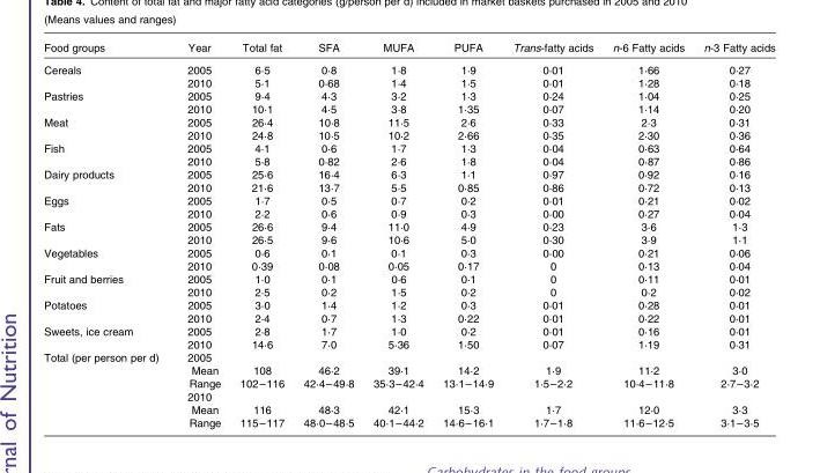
<table><thead><tr><td>Food groups</td><td>Year</td><td>Total fat</td><td>SFA</td><td>MUFA</td><td>PUFA</td><td>Trans-fatty acids</td><td>n-6 Fatty acids</td><td>n-3 Fatty acids</td></tr></thead><tbody><tr><td rowspan="2">Cereals</td><td>2005</td><td>6·5</td><td>0·8</td><td>1·8</td><td>1·9</td><td>0·01</td><td>1·66</td><td>0·27</td></tr><tr><td>2010</td><td>5·1</td><td>0·68</td><td>1·4</td><td>1·5</td><td>0·01</td><td>1·28</td><td>0·18</td></tr><tr><td rowspan="2">Pastries</td><td>2005</td><td>9·4</td><td>4·3</td><td>3·2</td><td>1·3</td><td>0·24</td><td>1·04</td><td>0·25</td></tr><tr><td>2010</td><td>10·1</td><td>4·5</td><td>3·8</td><td>1·35</td><td>0·07</td><td>1·14</td><td>0·20</td></tr><tr><td rowspan="2">Meat</td><td>2005</td><td>26·4</td><td>10·8</td><td>11·5</td><td>2·6</td><td>0·33</td><td>2·3</td><td>0·31</td></tr><tr><td>2010</td><td>24·8</td><td>10·5</td><td>10·2</td><td>2·66</td><td>0·35</td><td>2·30</td><td>0·36</td></tr><tr><td rowspan="2">Fish</td><td>2005</td><td>4·1</td><td>0·6</td><td>1·7</td><td>1·3</td><td>0·04</td><td>0·63</td><td>0·64</td></tr><tr><td>2010</td><td>5·8</td><td>0·82</td><td>2·6</td><td>1·8</td><td>0·04</td><td>0·87</td><td>0·86</td></tr><tr><td rowspan="2">Dairy products</td><td>2005</td><td>25·6</td><td>16·4</td><td>6·3</td><td>1·1</td><td>0·97</td><td>0·92</td><td>0·16</td></tr><tr><td>2010</td><td>21·6</td><td>13·7</td><td>5·5</td><td>0·85</td><td>0·86</td><td>0·72</td><td>0·13</td></tr><tr><td rowspan="2">Eggs</td><td>2005</td><td>1·7</td><td>0·5</td><td>0·7</td><td>0·2</td><td>0·01</td><td>0·21</td><td>0·02</td></tr><tr><td>2010</td><td>2·2</td><td>0·6</td><td>0·9</td><td>0·3</td><td>0·00</td><td>0·27</td><td>0·04</td></tr><tr><td rowspan="2">Fats</td><td>2005</td><td>26·6</td><td>9·4</td><td>11·0</td><td>4·9</td><td>0·23</td><td>3·6</td><td>1·3</td></tr><tr><td>2010</td><td>26·5</td><td>9·6</td><td>10·6</td><td>5·0</td><td>0·30</td><td>3·9</td><td>1·1</td></tr><tr><td rowspan="2">Vegetables</td><td>2005</td><td>0·6</td><td>0·1</td><td>0·1</td><td>0·3</td><td>0·00</td><td>0·21</td><td>0·06</td></tr><tr><td>2010</td><td>0·39</td><td>0·08</td><td>0·05</td><td>0·17</td><td>0</td><td>0·13</td><td>0·04</td></tr><tr><td rowspan="2">Fruit and berries</td><td>2005</td><td>1·0</td><td>0·1</td><td>0·6</td><td>0·1</td><td>0</td><td>0·11</td><td>0·01</td></tr><tr><td>2010</td><td>2·5</td><td>0·2</td><td>1·5</td><td>0·2</td><td>0</td><td>0·2</td><td>0·02</td></tr><tr><td rowspan="2">Potatoes</td><td>2005</td><td>3·0</td><td>1·4</td><td>1·2</td><td>0·3</td><td>0·01</td><td>0·28</td><td>0·01</td></tr><tr><td>2010</td><td>2·4</td><td>0·7</td><td>1·3</td><td>0·22</td><td>0·01</td><td>0·22</td><td>0·01</td></tr><tr><td rowspan="2">Sweets, ice cream</td><td>2005</td><td>2·8</td><td>1·7</td><td>1·0</td><td>0·2</td><td>0·01</td><td>0·16</td><td>0·01</td></tr><tr><td>2010</td><td>14·6</td><td>7·0</td><td>5·36</td><td>1·50</td><td>0·07</td><td>1·19</td><td>0·31</td></tr><tr><td rowspan="6">Total (per person per d)</td><td>2005</td><td></td><td></td><td></td><td></td><td></td><td></td><td></td></tr><tr><td>Mean</td><td>108</td><td>46·2</td><td>39·1</td><td>14·2</td><td>1·9</td><td>11·2</td><td>3·0</td></tr><tr><td>Range</td><td>102–116</td><td>42·4–49·8</td><td>35·3–42·4</td><td>13·1–14·9</td><td>1·5–2·2</td><td>10·4–11·8</td><td>2·7–3·2</td></tr><tr><td>2010</td><td></td><td></td><td></td><td></td><td></td><td></td><td></td></tr><tr><td>Mean</td><td>116</td><td>48·3</td><td>42·1</td><td>15·3</td><td>1·7</td><td>12·0</td><td>3·3</td></tr><tr><td>Range</td><td>115–117</td><td>48·0–48·5</td><td>40·1–44·2</td><td>14·6–16·1</td><td>1·7–1·8</td><td>11·6–12·5</td><td>3·1–3·5</td></tr></tbody></table>